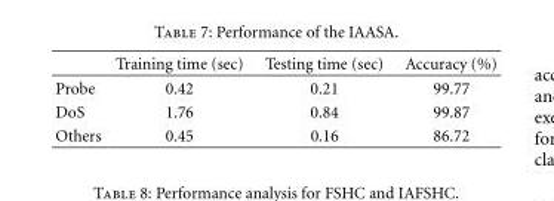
<table><thead><tr><td></td><td>Training time (sec)</td><td>Testing time (sec)</td><td>Accuracy (%)</td></tr></thead><tbody><tr><td>Probe</td><td>0.42</td><td>0.21</td><td>99.77</td></tr><tr><td>DoS</td><td>1.76</td><td>0.84</td><td>99.87</td></tr><tr><td>Others</td><td>0.45</td><td>0.16</td><td>86.72</td></tr></tbody></table>